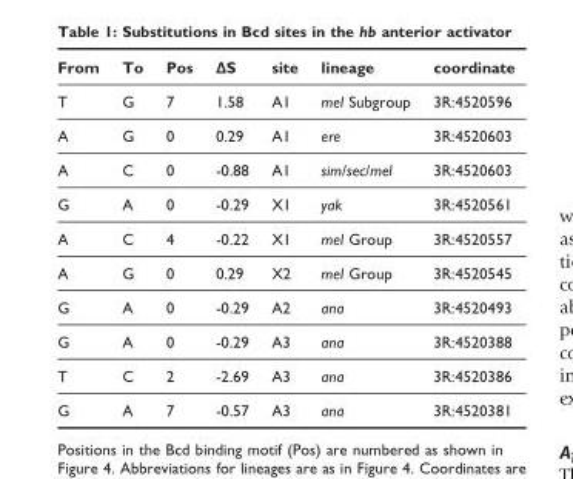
<table><thead><tr><td>From</td><td>To</td><td>Pos</td><td>ΔS</td><td>site</td><td>lineage</td><td>coordinate</td></tr></thead><tbody><tr><td>T</td><td>G</td><td>7</td><td>1.58</td><td>A1</td><td>mel Subgroup</td><td>3R:4520596</td></tr><tr><td>A</td><td>G</td><td>0</td><td>0.29</td><td>A1</td><td>ere</td><td>3R:4520603</td></tr><tr><td>A</td><td>C</td><td>0</td><td>-0.88</td><td>A1</td><td>sim/sec/mel</td><td>3R:4520603</td></tr><tr><td>G</td><td>A</td><td>0</td><td>-0.29</td><td>X1</td><td>yak</td><td>3R:4520561</td></tr><tr><td>A</td><td>C</td><td>4</td><td>-0.22</td><td>X1</td><td>mel Group</td><td>3R:4520557</td></tr><tr><td>A</td><td>G</td><td>0</td><td>0.29</td><td>X2</td><td>mel Group</td><td>3R:4520545</td></tr><tr><td>G</td><td>A</td><td>0</td><td>-0.29</td><td>A2</td><td>ana</td><td>3R:4520493</td></tr><tr><td>G</td><td>A</td><td>0</td><td>-0.29</td><td>A3</td><td>ana</td><td>3R:4520388</td></tr><tr><td>T</td><td>C</td><td>2</td><td>-2.69</td><td>A3</td><td>ana</td><td>3R:4520386</td></tr><tr><td>G</td><td>A</td><td>7</td><td>-0.57</td><td>A3</td><td>ana</td><td>3R:4520381</td></tr></tbody></table>